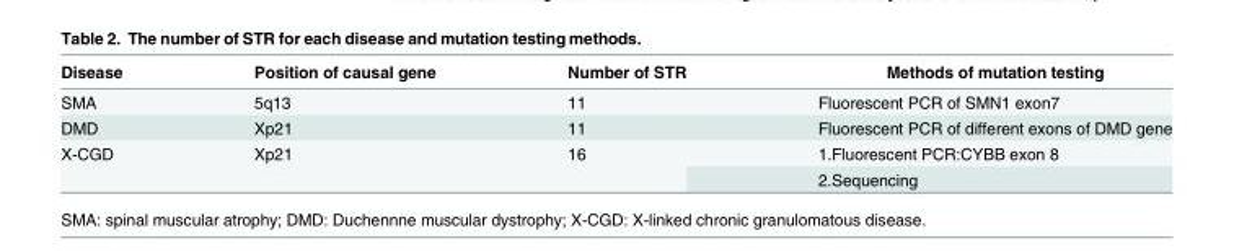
<table><thead><tr><td>Disease</td><td>Position of causal gene</td><td>Number of STR</td><td>Methods of mutation testing</td></tr></thead><tbody><tr><td>SMA</td><td>5q13</td><td>11</td><td>Fluorescent PCR of SMN1 exon7</td></tr><tr><td>DMD</td><td>Xp21</td><td>11</td><td>Fluorescent PCR of different exons of DMD gene</td></tr><tr><td rowspan="2">X-CGD</td><td rowspan="2">Xp21</td><td rowspan="2">16</td><td>1.Fluorescent PCR:CYBB exon 8</td></tr><tr><td>2.Sequencing</td></tr></tbody></table>